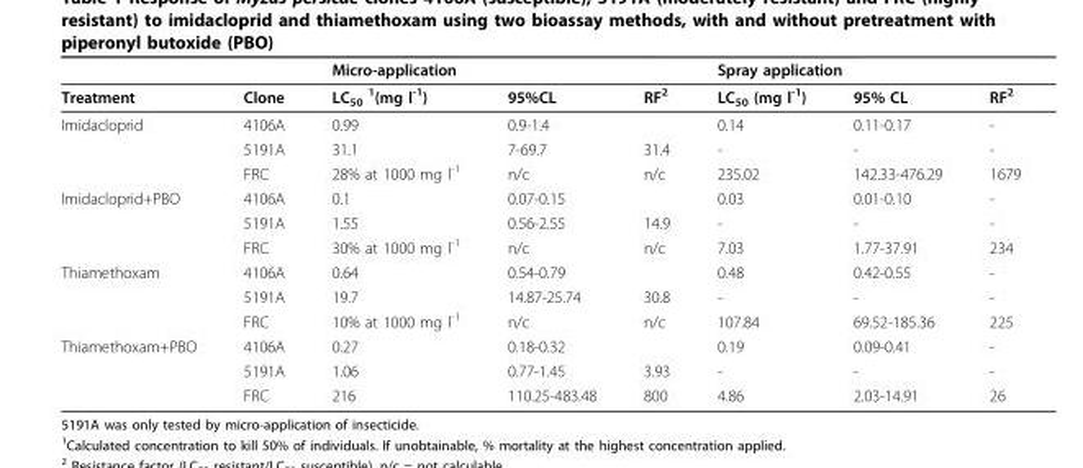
<table><thead><tr><td rowspan="2">Treatment</td><td rowspan="2">Clone</td><td colspan="3">Micro-application</td><td colspan="3">Spray application</td></tr><tr><td>LC<sub>50</sub> <sup>1</sup>(mg l<sup>-1</sup>)</td><td>95%CL</td><td>RF<sup>2</sup></td><td>LC<sub>50</sub> (mg l<sup>-1</sup>)</td><td>95% CL</td><td>RF<sup>2</sup></td></tr></thead><tbody><tr><td rowspan="3">Imidacloprid</td><td>4106A</td><td>0.99</td><td>0.9-1.4</td><td></td><td>0.14</td><td>0.11-0.17</td><td>-</td></tr><tr><td>5191A</td><td>31.1</td><td>7-69.7</td><td>31.4</td><td>-</td><td>-</td><td>-</td></tr><tr><td>FRC</td><td>28% at 1000 mg l<sup>-1</sup></td><td>n/c</td><td>n/c</td><td>235.02</td><td>142.33-476.29</td><td>1679</td></tr><tr><td rowspan="3">Imidacloprid+PBO</td><td>4106A</td><td>0.1</td><td>0.07-0.15</td><td></td><td>0.03</td><td>0.01-0.10</td><td>-</td></tr><tr><td>5191A</td><td>1.55</td><td>0.56-2.55</td><td>14.9</td><td>-</td><td>-</td><td>-</td></tr><tr><td>FRC</td><td>30% at 1000 mg l<sup>-1</sup></td><td>n/c</td><td>n/c</td><td>7.03</td><td>1.77-37.91</td><td>234</td></tr><tr><td rowspan="3">Thiamethoxam</td><td>4106A</td><td>0.64</td><td>0.54-0.79</td><td></td><td>0.48</td><td>0.42-0.55</td><td>-</td></tr><tr><td>5191A</td><td>19.7</td><td>14.87-25.74</td><td>30.8</td><td>-</td><td>-</td><td>-</td></tr><tr><td>FRC</td><td>10% at 1000 mg l<sup>-1</sup></td><td>n/c</td><td>n/c</td><td>107.84</td><td>69.52-185.36</td><td>225</td></tr><tr><td rowspan="3">Thiamethoxam+PBO</td><td>4106A</td><td>0.27</td><td>0.18-0.32</td><td></td><td>0.19</td><td>0.09-0.41</td><td>-</td></tr><tr><td>5191A</td><td>1.06</td><td>0.77-1.45</td><td>3.93</td><td>-</td><td>-</td><td>-</td></tr><tr><td>FRC</td><td>216</td><td>110.25-483.48</td><td>800</td><td>4.86</td><td>2.03-14.91</td><td>26</td></tr></tbody></table>